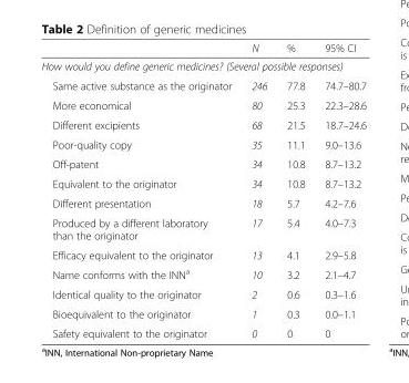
<table><thead><tr><td></td><td>N</td><td>%</td><td>95% CI</td></tr></thead><tbody><tr><td colspan="4">How would you define generic medicines? (Several possible responses)</td></tr><tr><td>Same active substance as the originator</td><td>246</td><td>77.8</td><td>74.7–80.7</td></tr><tr><td>More economical</td><td>80</td><td>25.3</td><td>22.3–28.6</td></tr><tr><td>Different excipients</td><td>68</td><td>21.5</td><td>18.7–24.6</td></tr><tr><td>Poor-quality copy</td><td>35</td><td>11.1</td><td>9.0–13.6</td></tr><tr><td>Off-patent</td><td>34</td><td>10.8</td><td>8.7–13.2</td></tr><tr><td>Equivalent to the originator</td><td>34</td><td>10.8</td><td>8.7–13.2</td></tr><tr><td>Different presentation</td><td>18</td><td>5.7</td><td>4.2–7.6</td></tr><tr><td>Produced by a different laboratory than the originator</td><td>17</td><td>5.4</td><td>4.0–7.3</td></tr><tr><td>Efficacy equivalent to the originator</td><td>13</td><td>4.1</td><td>2.9–5.8</td></tr><tr><td>Name conforms with the INN<sup>a</sup></td><td>10</td><td>3.2</td><td>2.1–4.7</td></tr><tr><td>Identical quality to the originator</td><td>2</td><td>0.6</td><td>0.3–1.6</td></tr><tr><td>Bioequivalent to the originator</td><td>1</td><td>0.3</td><td>0.0–1.1</td></tr><tr><td>Safety equivalent to the originator</td><td>0</td><td>0</td><td>0</td></tr></tbody></table>